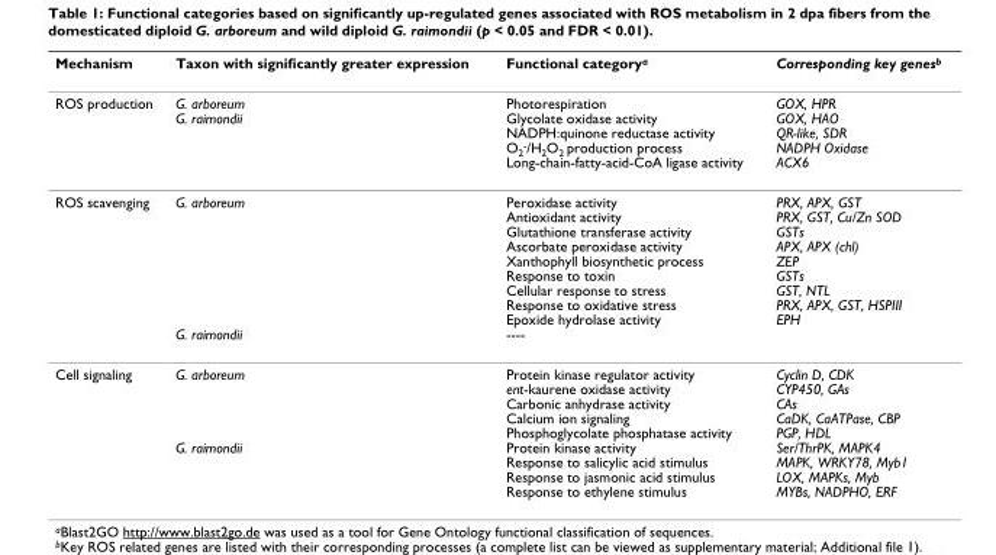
<table><thead><tr><td>Mechanism</td><td>Taxon with significantly greater expression</td><td>Functional category<sup>a</sup></td><td>Corresponding key genes<sup>b</sup></td></tr></thead><tbody><tr><td>ROS production</td><td>G. arboreum G. raimondii</td><td>Photorespiration Glycolate oxidase activity NADPH:quinone reductase activity O<sub>2</sub><sup>-</sup>/H<sub>2</sub>O<sub>2</sub> production process Long-chain-fatty-acid-CoA ligase activity</td><td>GOX, HPR GOX, HAO QR-like, SDR NADPH Oxidase ACX6</td></tr><tr><td>ROS scavenging</td><td>G. arboreum G. raimondii</td><td>Peroxidase activity Antioxidant activity Glutathione transferase activity Ascorbate peroxidase activity Xanthophyll biosynthetic process Response to toxin Cellular response to stress Response to oxidative stress Epoxide hydrolase activity ----</td><td>PRX, APX, GST PRX, GST, Cu/Zn SOD GSTs APX, APX (chl) ZEP GSTs GST, NTL PRX, APX, GST, HSPIII EPH</td></tr><tr><td>Cell signaling</td><td>G. arboreum G. raimondii</td><td>Protein kinase regulator activity ent-kaurene oxidase activity Carbonic anhydrase activity Calcium ion signaling Phosphoglycolate phosphatase activity Protein kinase activity Response to salicylic acid stimulus Response to jasmonic acid stimulus Response to ethylene stimulus</td><td>Cyclin D, CDK CYP450, GAs CAs CaDK, CaATPase, CBP PGP, HDL Ser/ThrPK, MAPK4 MAPK, WRKY78, Myb1 LOX, MAPKs, Myb MYBs, NADPHO, ERF</td></tr></tbody></table>